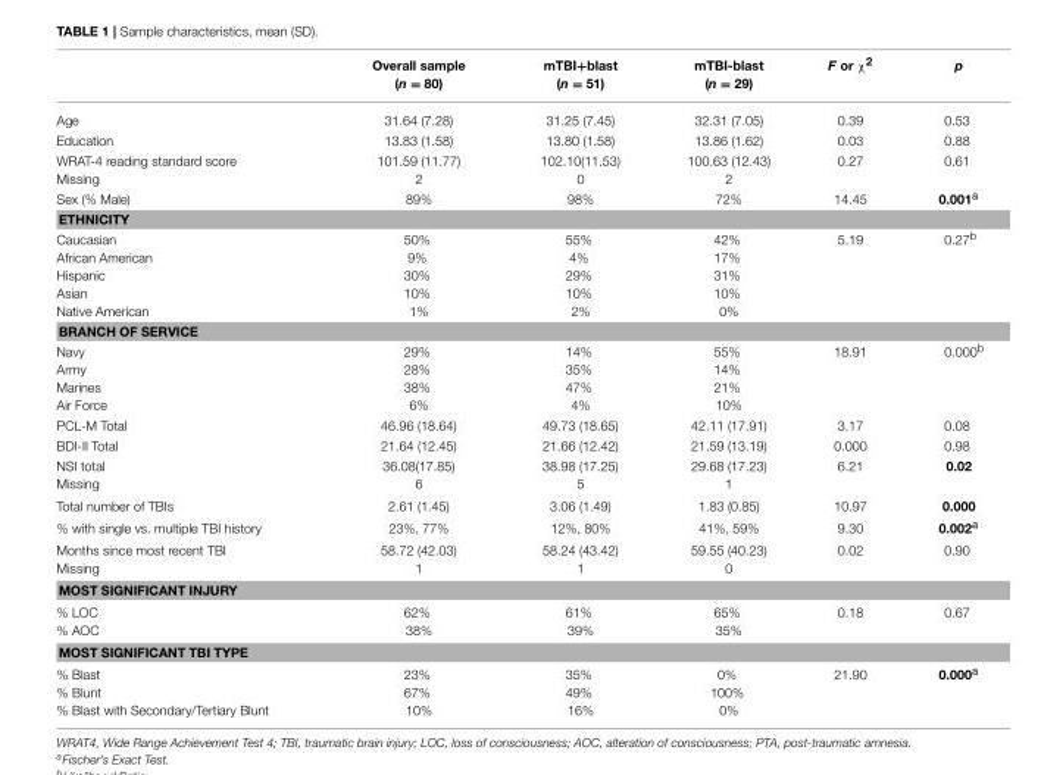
<table><thead><tr><td></td><td>Overall sample (n = 80)</td><td>mTBI+blast (n = 51)</td><td>mTBI-blast (n = 29)</td><td>F or χ<sup>2</sup></td><td>p</td></tr></thead><tbody><tr><td>Age</td><td>31.64 (7.28)</td><td>31.25 (7.45)</td><td>32.31 (7.05)</td><td>0.39</td><td>0.53</td></tr><tr><td>Education</td><td>13.83 (1.58)</td><td>13.80 (1.58)</td><td>13.86 (1.62)</td><td>0.03</td><td>0.88</td></tr><tr><td>WRAT-4 reading standard score Missing</td><td>101.59 (11.77) 2</td><td>102.10(11.53) 0</td><td>100.63 (12.43) 2</td><td>0.27</td><td>0.61</td></tr><tr><td>Sex (% Male)</td><td>89%</td><td>98%</td><td>72%</td><td>14.45</td><td>0.001<sup>a</sup></td></tr><tr><td colspan="6">ETHNICITY</td></tr><tr><td>Caucasian African American Hispanic Asian Native American</td><td>50% 9% 30% 10% 1%</td><td>55% 4% 29% 10% 2%</td><td>42% 17% 31% 10% 0%</td><td>5.19</td><td>0.27<sup>b</sup></td></tr><tr><td colspan="6">BRANCH OF SERVICE</td></tr><tr><td>Navy Army Marines Air Force</td><td>29% 28% 38% 6%</td><td>14% 35% 47% 4%</td><td>55% 14% 21% 10%</td><td>18.91</td><td>0.000<sup>b</sup></td></tr><tr><td>PCL-M Total</td><td>46.96 (18.64)</td><td>49.73 (18.65)</td><td>42.11 (17.91)</td><td>3.17</td><td>0.08</td></tr><tr><td>BDI-II Total</td><td>21.64 (12.45)</td><td>21.66 (12.42)</td><td>21.59 (13.19)</td><td>0.000</td><td>0.98</td></tr><tr><td>NSI total Missing</td><td>36.08(17.85) 6</td><td>38.98 (17.25) 5</td><td>29.68 (17.23) 1</td><td>6.21</td><td>0.02</td></tr><tr><td>Total number of TBIs</td><td>2.61 (1.45)</td><td>3.06 (1.49)</td><td>1.83 (0.85)</td><td>10.97</td><td>0.000</td></tr><tr><td>% with single vs. multiple TBI history</td><td>23%, 77%</td><td>12%, 80%</td><td>41%, 59%</td><td>9.30</td><td>0.002<sup>a</sup></td></tr><tr><td>Months since most recent TBI Missing</td><td>58.72 (42.03) 1</td><td>58.24 (43.42) 1</td><td>59.55 (40.23) 0</td><td>0.02</td><td>0.90</td></tr><tr><td colspan="6">MOST SIGNIFICANT INJURY</td></tr><tr><td>% LOC % AOC</td><td>62% 38%</td><td>61% 39%</td><td>65% 35%</td><td>0.18</td><td>0.67</td></tr><tr><td colspan="6">MOST SIGNIFICANT TBI TYPE</td></tr><tr><td>% Blast % Blunt % Blast with Secondary/Tertiary Blunt</td><td>23% 67% 10%</td><td>35% 49% 16%</td><td>0% 100% 0%</td><td>21.90</td><td>0.000<sup>a</sup></td></tr></tbody></table>